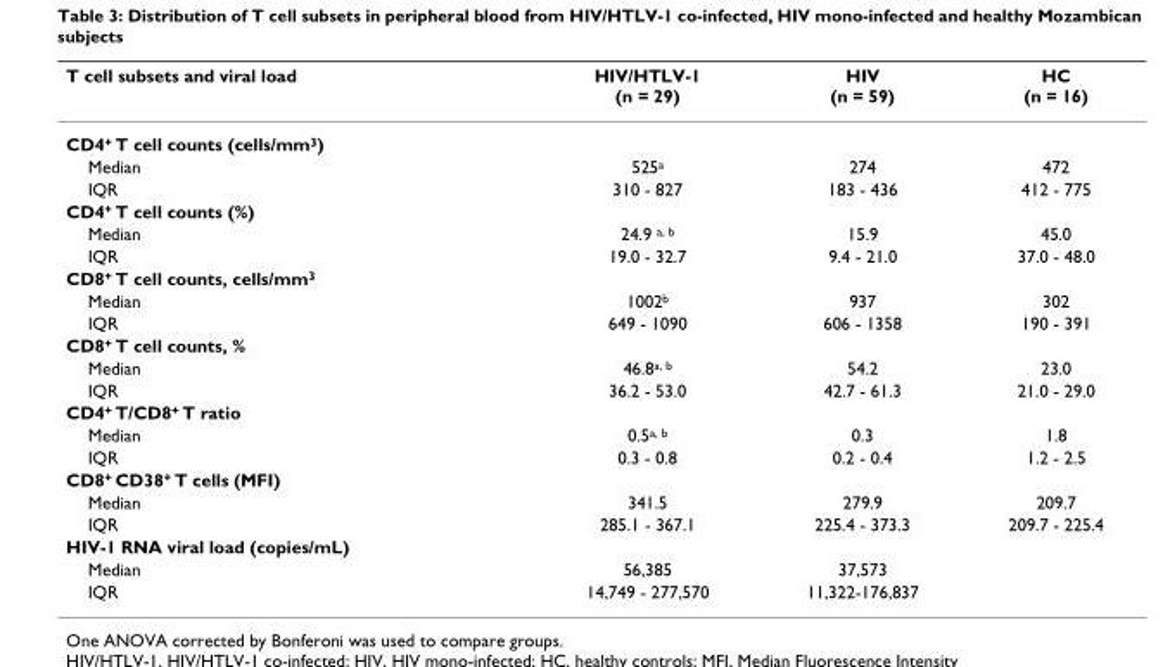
<table><thead><tr><td>T cell subsets and viral load</td><td>HIV/HTLV-1 (n = 29)</td><td>HIV (n = 59)</td><td>HC (n = 16)</td></tr></thead><tbody><tr><td colspan="4">CD4<sup>+</sup> T cell counts (cells/mm<sup>3</sup>)</td></tr><tr><td>Median</td><td>525<sup>a</sup></td><td>274</td><td>472</td></tr><tr><td>IQR</td><td>310 - 827</td><td>183 - 436</td><td>412 - 775</td></tr><tr><td colspan="4">CD4<sup>+</sup> T cell counts (%)</td></tr><tr><td>Median</td><td>24.9 <sup>a, b</sup></td><td>15.9</td><td>45.0</td></tr><tr><td>IQR</td><td>19.0 - 32.7</td><td>9.4 - 21.0</td><td>37.0 - 48.0</td></tr><tr><td colspan="4">CD8<sup>+</sup> T cell counts, cells/mm<sup>3</sup></td></tr><tr><td>Median</td><td>1002<sup>b</sup></td><td>937</td><td>302</td></tr><tr><td>IQR</td><td>649 - 1090</td><td>606 - 1358</td><td>190 - 391</td></tr><tr><td colspan="4">CD8<sup>+</sup> T cell counts, %</td></tr><tr><td>Median</td><td>46.8<sup>a, b</sup></td><td>54.2</td><td>23.0</td></tr><tr><td>IQR</td><td>36.2 - 53.0</td><td>42.7 - 61.3</td><td>21.0 - 29.0</td></tr><tr><td colspan="4">CD4<sup>+</sup> T/CD8<sup>+</sup> T ratio</td></tr><tr><td>Median</td><td>0.5<sup>a, b</sup></td><td>0.3</td><td>1.8</td></tr><tr><td>IQR</td><td>0.3 - 0.8</td><td>0.2 - 0.4</td><td>1.2 - 2.5</td></tr><tr><td colspan="4">CD8<sup>+</sup> CD38<sup>+</sup> T cells (MFI)</td></tr><tr><td>Median</td><td>341.5</td><td>279.9</td><td>209.7</td></tr><tr><td>IQR</td><td>285.1 - 367.1</td><td>225.4 - 373.3</td><td>209.7 - 225.4</td></tr><tr><td colspan="4">HIV-1 RNA viral load (copies/mL)</td></tr><tr><td>Median</td><td>56,385</td><td>37,573</td><td></td></tr><tr><td>IQR</td><td>14,749 - 277,570</td><td>11,322-176,837</td><td></td></tr></tbody></table>